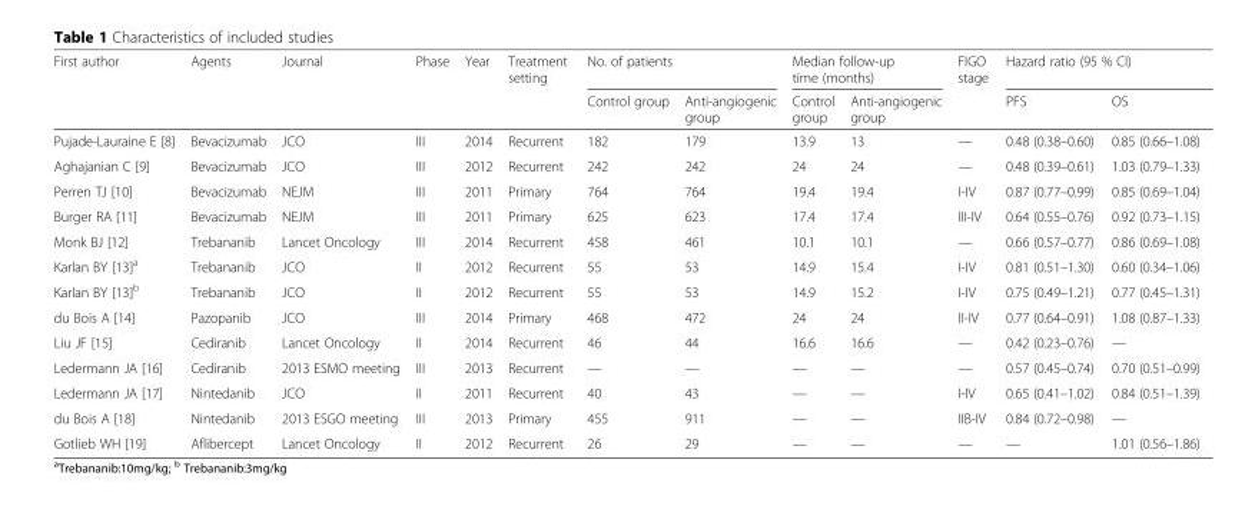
<table><thead><tr><td rowspan="2">First author</td><td rowspan="2">Agents</td><td rowspan="2">Journal</td><td rowspan="2">Phase</td><td rowspan="2">Year</td><td rowspan="2">Treatment setting</td><td colspan="2">No. of patients</td><td colspan="2">Median follow-up time (months)</td><td rowspan="2">FIGO stage</td><td colspan="2">Hazard ratio (95 % CI)</td></tr><tr><td>Control group</td><td>Anti-angiogenic group</td><td>Control group</td><td>Anti-angiogenic group</td><td>PFS</td><td>OS</td></tr></thead><tbody><tr><td>Pujade-Lauraine E [8]</td><td>Bevacizumab</td><td>JCO</td><td>III</td><td>2014</td><td>Recurrent</td><td>182</td><td>179</td><td>13.9</td><td>13</td><td>—</td><td>0.48 (0.38–0.60)</td><td>0.85 (0.66–1.08)</td></tr><tr><td>Aghajanian C [9]</td><td>Bevacizumab</td><td>JCO</td><td>III</td><td>2012</td><td>Recurrent</td><td>242</td><td>242</td><td>24</td><td>24</td><td>—</td><td>0.48 (0.39–0.61)</td><td>1.03 (0.79–1.33)</td></tr><tr><td>Perren TJ [10]</td><td>Bevacizumab</td><td>NEJM</td><td>III</td><td>2011</td><td>Primary</td><td>764</td><td>764</td><td>19.4</td><td>19.4</td><td>I-IV</td><td>0.87 (0.77–0.99)</td><td>0.85 (0.69–1.04)</td></tr><tr><td>Burger RA [11]</td><td>Bevacizumab</td><td>NEJM</td><td>III</td><td>2011</td><td>Primary</td><td>625</td><td>623</td><td>17.4</td><td>17.4</td><td>III-IV</td><td>0.64 (0.55–0.76)</td><td>0.92 (0.73–1.15)</td></tr><tr><td>Monk BJ [12]</td><td>Trebananib</td><td>Lancet Oncology</td><td>III</td><td>2014</td><td>Recurrent</td><td>458</td><td>461</td><td>10.1</td><td>10.1</td><td>—</td><td>0.66 (0.57–0.77)</td><td>0.86 (0.69–1.08)</td></tr><tr><td>Karlan BY [13]<sup>a</sup></td><td>Trebananib</td><td>JCO</td><td>II</td><td>2012</td><td>Recurrent</td><td>55</td><td>53</td><td>14.9</td><td>15.4</td><td>I-IV</td><td>0.81 (0.51–1.30)</td><td>0.60 (0.34–1.06)</td></tr><tr><td>Karlan BY [13]<sup>b</sup></td><td>Trebananib</td><td>JCO</td><td>II</td><td>2012</td><td>Recurrent</td><td>55</td><td>53</td><td>14.9</td><td>15.2</td><td>I-IV</td><td>0.75 (0.49–1.21)</td><td>0.77 (0.45–1.31)</td></tr><tr><td>du Bois A [14]</td><td>Pazopanib</td><td>JCO</td><td>III</td><td>2014</td><td>Primary</td><td>468</td><td>472</td><td>24</td><td>24</td><td>II-IV</td><td>0.77 (0.64–0.91)</td><td>1.08 (0.87–1.33)</td></tr><tr><td>Liu JF [15]</td><td>Cediranib</td><td>Lancet Oncology</td><td>II</td><td>2014</td><td>Recurrent</td><td>46</td><td>44</td><td>16.6</td><td>16.6</td><td>—</td><td>0.42 (0.23–0.76)</td><td>—</td></tr><tr><td>Ledermann JA [16]</td><td>Cediranib</td><td>2013 ESMO meeting</td><td>III</td><td>2013</td><td>Recurrent</td><td>—</td><td>—</td><td>—</td><td>—</td><td>—</td><td>0.57 (0.45–0.74)</td><td>0.70 (0.51–0.99)</td></tr><tr><td>Ledermann JA [17]</td><td>Nintedanib</td><td>JCO</td><td>II</td><td>2011</td><td>Recurrent</td><td>40</td><td>43</td><td>—</td><td>—</td><td>I-IV</td><td>0.65 (0.41–1.02)</td><td>0.84 (0.51–1.39)</td></tr><tr><td>du Bois A [18]</td><td>Nintedanib</td><td>2013 ESGO meeting</td><td>III</td><td>2013</td><td>Primary</td><td>455</td><td>911</td><td>—</td><td>—</td><td>IIB-IV</td><td>0.84 (0.72–0.98)</td><td>—</td></tr><tr><td>Gotlieb WH [19]</td><td>Aflibercept</td><td>Lancet Oncology</td><td>II</td><td>2012</td><td>Recurrent</td><td>26</td><td>29</td><td>—</td><td>—</td><td>—</td><td>—</td><td>1.01 (0.56–1.86)</td></tr></tbody></table>